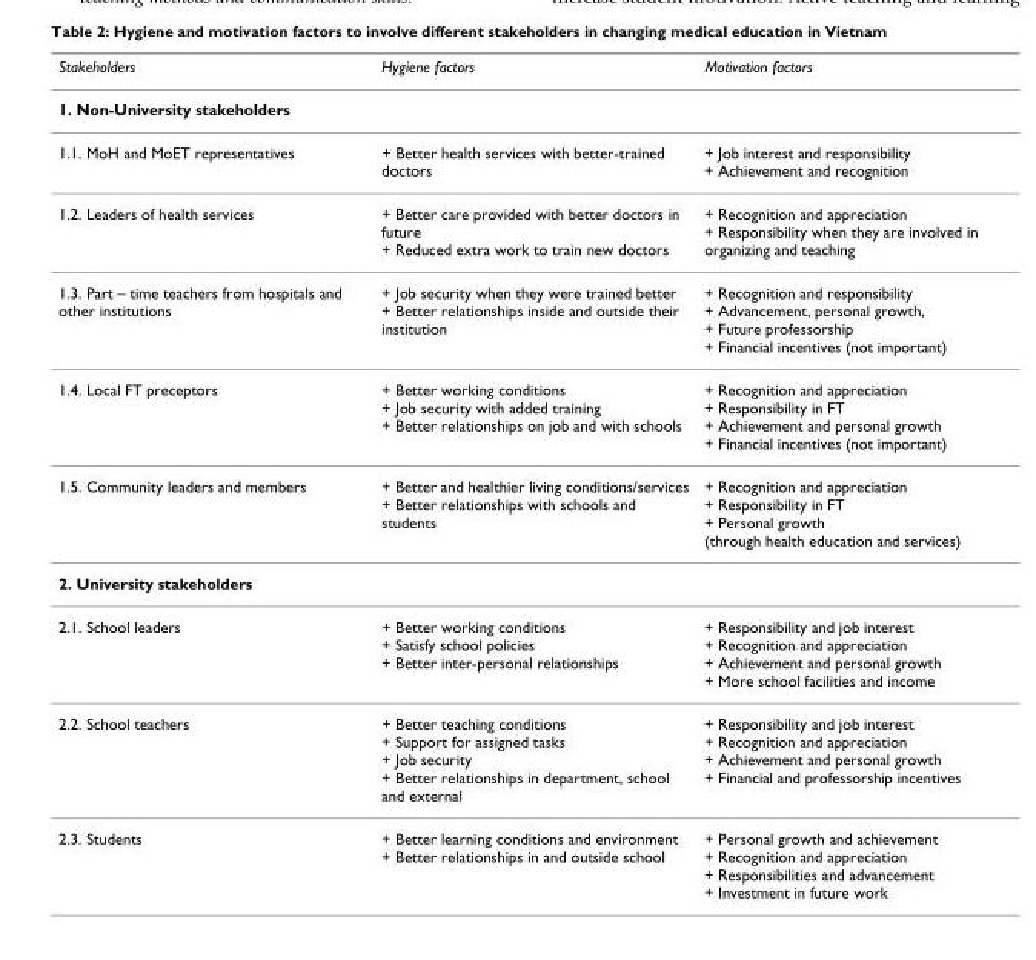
<table><thead><tr><td>Stakeholders</td><td>Hygiene factors</td><td>Motivation factors</td></tr></thead><tbody><tr><td colspan="3">1. Non-University stakeholders</td></tr><tr><td>1.1. MoH and MoET representatives</td><td>+ Better health services with better-trained doctors</td><td>+ Job interest and responsibility + Achievement and recognition</td></tr><tr><td>1.2. Leaders of health services</td><td>+ Better care provided with better doctors in future + Reduced extra work to train new doctors</td><td>+ Recognition and appreciation + Responsibility when they are involved in organizing and teaching</td></tr><tr><td>1.3. Part – time teachers from hospitals and other institutions</td><td>+ Job security when they were trained better + Better relationships inside and outside their institution</td><td>+ Recognition and responsibility + Advancement, personal growth, + Future professorship + Financial incentives (not important)</td></tr><tr><td>1.4. Local FT preceptors</td><td>+ Better working conditions + Job security with added training + Better relationships on job and with schools</td><td>+ Recognition and appreciation + Responsibility in FT + Achievement and personal growth + Financial incentives (not important)</td></tr><tr><td>1.5. Community leaders and members</td><td>+ Better and healthier living conditions/services + Better relationships with schools and students</td><td>+ Recognition and appreciation + Responsibility in FT + Personal growth (through health education and services)</td></tr><tr><td colspan="3">2. University stakeholders</td></tr><tr><td>2.1. School leaders</td><td>+ Better working conditions + Satisfy school policies + Better inter-personal relationships</td><td>+ Responsibility and job interest + Recognition and appreciation + Achievement and personal growth + More school facilities and income</td></tr><tr><td>2.2. School teachers</td><td>+ Better teaching conditions + Support for assigned tasks + Job security + Better relationships in department, school and external</td><td>+ Responsibility and job interest + Recognition and appreciation + Achievement and personal growth + Financial and professorship incentives</td></tr><tr><td>2.3. Students</td><td>+ Better learning conditions and environment + Better relationships in and outside school</td><td>+ Personal growth and achievement + Recognition and appreciation + Responsibilities and advancement + Investment in future work</td></tr></tbody></table>